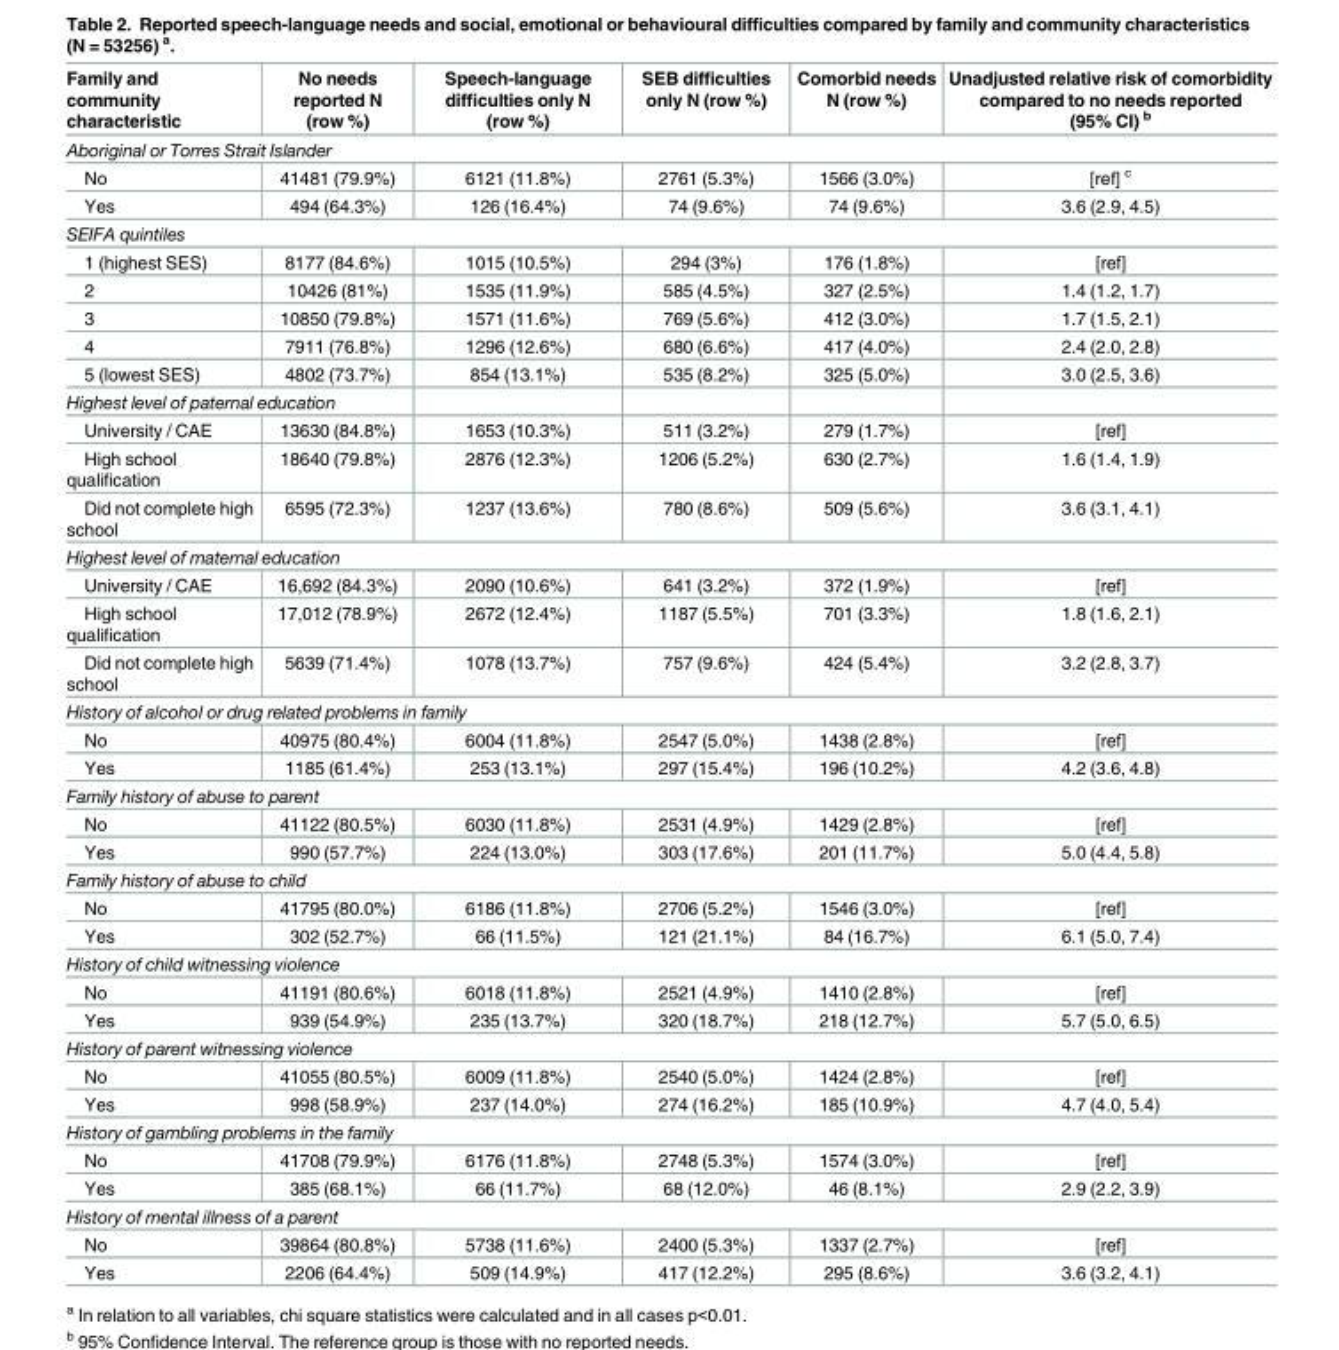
<table><thead><tr><td>Family and community characteristic</td><td>No needs reported N (row %)</td><td>Speech-language difficulties only N (row %)</td><td>SEB difficulties only N (row %)</td><td>Comorbid needs N (row %)</td><td>Unadjusted relative risk of comorbidity compared to no needs reported (95% CI) <sup>b</sup></td></tr></thead><tbody><tr><td colspan="6">Aboriginal or Torres Strait Islander</td></tr><tr><td>No</td><td>41481 (79.9%)</td><td>6121 (11.8%)</td><td>2761 (5.3%)</td><td>1566 (3.0%)</td><td>[ref] <sup>c</sup></td></tr><tr><td>Yes</td><td>494 (64.3%)</td><td>126 (16.4%)</td><td>74 (9.6%)</td><td>74 (9.6%)</td><td>3.6 (2.9, 4.5)</td></tr><tr><td colspan="6">SEIFA quintiles</td></tr><tr><td>1 (highest SES)</td><td>8177 (84.6%)</td><td>1015 (10.5%)</td><td>294 (3%)</td><td>176 (1.8%)</td><td>[ref]</td></tr><tr><td>2</td><td>10426 (81%)</td><td>1535 (11.9%)</td><td>585 (4.5%)</td><td>327 (2.5%)</td><td>1.4 (1.2, 1.7)</td></tr><tr><td>3</td><td>10850 (79.8%)</td><td>1571 (11.6%)</td><td>769 (5.6%)</td><td>412 (3.0%)</td><td>1.7 (1.5, 2.1)</td></tr><tr><td>4</td><td>7911 (76.8%)</td><td>1296 (12.6%)</td><td>680 (6.6%)</td><td>417 (4.0%)</td><td>2.4 (2.0, 2.8)</td></tr><tr><td>5 (lowest SES)</td><td>4802 (73.7%)</td><td>854 (13.1%)</td><td>535 (8.2%)</td><td>325 (5.0%)</td><td>3.0 (2.5, 3.6)</td></tr><tr><td colspan="6">Highest level of paternal education</td></tr><tr><td>University / CAE</td><td>13630 (84.8%)</td><td>1653 (10.3%)</td><td>511 (3.2%)</td><td>279 (1.7%)</td><td>[ref]</td></tr><tr><td>High school qualification</td><td>18640 (79.8%)</td><td>2876 (12.3%)</td><td>1206 (5.2%)</td><td>630 (2.7%)</td><td>1.6 (1.4, 1.9)</td></tr><tr><td>Did not complete high school</td><td>6595 (72.3%)</td><td>1237 (13.6%)</td><td>780 (8.6%)</td><td>509 (5.6%)</td><td>3.6 (3.1, 4.1)</td></tr><tr><td colspan="6">Highest level of maternal education</td></tr><tr><td>University / CAE</td><td>16,692 (84.3%)</td><td>2090 (10.6%)</td><td>641 (3.2%)</td><td>372 (1.9%)</td><td>[ref]</td></tr><tr><td>High school qualification</td><td>17,012 (78.9%)</td><td>2672 (12.4%)</td><td>1187 (5.5%)</td><td>701 (3.3%)</td><td>1.8 (1.6, 2.1)</td></tr><tr><td>Did not complete high school</td><td>5639 (71.4%)</td><td>1078 (13.7%)</td><td>757 (9.6%)</td><td>424 (5.4%)</td><td>3.2 (2.8, 3.7)</td></tr><tr><td colspan="6">History of alcohol or drug related problems in family</td></tr><tr><td>No</td><td>40975 (80.4%)</td><td>6004 (11.8%)</td><td>2547 (5.0%)</td><td>1438 (2.8%)</td><td>[ref]</td></tr><tr><td>Yes</td><td>1185 (61.4%)</td><td>253 (13.1%)</td><td>297 (15.4%)</td><td>196 (10.2%)</td><td>4.2 (3.6, 4.8)</td></tr><tr><td colspan="6">Family history of abuse to parent</td></tr><tr><td>No</td><td>41122 (80.5%)</td><td>6030 (11.8%)</td><td>2531 (4.9%)</td><td>1429 (2.8%)</td><td>[ref]</td></tr><tr><td>Yes</td><td>990 (57.7%)</td><td>224 (13.0%)</td><td>303 (17.6%)</td><td>201 (11.7%)</td><td>5.0 (4.4, 5.8)</td></tr><tr><td colspan="6">Family history of abuse to child</td></tr><tr><td>No</td><td>41795 (80.0%)</td><td>6186 (11.8%)</td><td>2706 (5.2%)</td><td>1546 (3.0%)</td><td>[ref]</td></tr><tr><td>Yes</td><td>302 (52.7%)</td><td>66 (11.5%)</td><td>121 (21.1%)</td><td>84 (16.7%)</td><td>6.1 (5.0, 7.4)</td></tr><tr><td colspan="6">History of child witnessing violence</td></tr><tr><td>No</td><td>41191 (80.6%)</td><td>6018 (11.8%)</td><td>2521 (4.9%)</td><td>1410 (2.8%)</td><td>[ref]</td></tr><tr><td>Yes</td><td>939 (54.9%)</td><td>235 (13.7%)</td><td>320 (18.7%)</td><td>218 (12.7%)</td><td>5.7 (5.0, 6.5)</td></tr><tr><td colspan="6">History of parent witnessing violence</td></tr><tr><td>No</td><td>41055 (80.5%)</td><td>6009 (11.8%)</td><td>2540 (5.0%)</td><td>1424 (2.8%)</td><td>[ref]</td></tr><tr><td>Yes</td><td>998 (58.9%)</td><td>237 (14.0%)</td><td>274 (16.2%)</td><td>185 (10.9%)</td><td>4.7 (4.0, 5.4)</td></tr><tr><td colspan="6">History of gambling problems in the family</td></tr><tr><td>No</td><td>41708 (79.9%)</td><td>6176 (11.8%)</td><td>2748 (5.3%)</td><td>1574 (3.0%)</td><td>[ref]</td></tr><tr><td>Yes</td><td>385 (68.1%)</td><td>66 (11.7%)</td><td>68 (12.0%)</td><td>46 (8.1%)</td><td>2.9 (2.2, 3.9)</td></tr><tr><td colspan="6">History of mental illness of a parent</td></tr><tr><td>No</td><td>39864 (80.8%)</td><td>5738 (11.6%)</td><td>2400 (5.3%)</td><td>1337 (2.7%)</td><td>[ref]</td></tr><tr><td>Yes</td><td>2206 (64.4%)</td><td>509 (14.9%)</td><td>417 (12.2%)</td><td>295 (8.6%)</td><td>3.6 (3.2, 4.1)</td></tr></tbody></table>